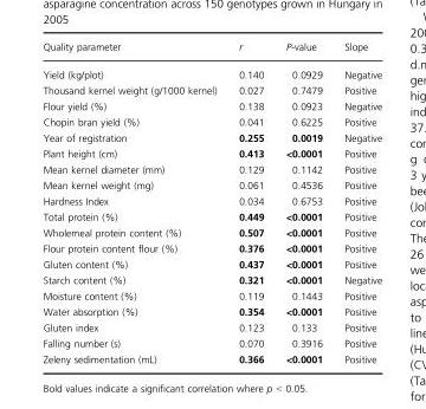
<table><thead><tr><td>Quality parameter</td><td>r</td><td>P-value</td><td>Slope</td></tr></thead><tbody><tr><td>Yield (kg/plot)</td><td>0.140</td><td>0.0929</td><td>Negative</td></tr><tr><td>Thousand kernel weight (g/1000 kernel)</td><td>0.027</td><td>0.7479</td><td>Positive</td></tr><tr><td>Flour yield (%)</td><td>0.138</td><td>0.0923</td><td>Negative</td></tr><tr><td>Chopin bran yield (%)</td><td>0.041</td><td>0.6225</td><td>Positive</td></tr><tr><td>Year of registration</td><td>0.255</td><td>0.0019</td><td>Negative</td></tr><tr><td>Plant height (cm)</td><td>0.413</td><td>&lt;0.0001</td><td>Positive</td></tr><tr><td>Mean kernel diameter (mm)</td><td>0.129</td><td>0.1142</td><td>Positive</td></tr><tr><td>Mean kernel weight (mg)</td><td>0.061</td><td>0.4536</td><td>Positive</td></tr><tr><td>Hardness Index</td><td>0.034</td><td>0.6753</td><td>Positive</td></tr><tr><td>Total protein (%)</td><td>0.449</td><td>&lt;0.0001</td><td>Positive</td></tr><tr><td>Wholemeal protein content (%)</td><td>0.507</td><td>&lt;0.0001</td><td>Positive</td></tr><tr><td>Flour protein content flour (%)</td><td>0.376</td><td>&lt;0.0001</td><td>Positive</td></tr><tr><td>Gluten content (%)</td><td>0.437</td><td>&lt;0.0001</td><td>Positive</td></tr><tr><td>Starch content (%)</td><td>0.321</td><td>&lt;0.0001</td><td>Negative</td></tr><tr><td>Moisture content (%)</td><td>0.119</td><td>0.1443</td><td>Positive</td></tr><tr><td>Water absorption (%)</td><td>0.354</td><td>&lt;0.0001</td><td>Positive</td></tr><tr><td>Gluten index</td><td>0.123</td><td>0.133</td><td>Positive</td></tr><tr><td>Falling number (s)</td><td>0.070</td><td>0.3916</td><td>Positive</td></tr><tr><td>Zeleny sedimentation (mL)</td><td>0.366</td><td>&lt;0.0001</td><td>Positive</td></tr></tbody></table>